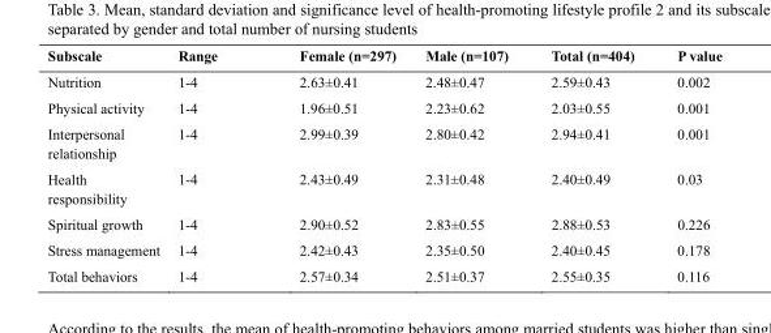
<table><thead><tr><td>Subscale</td><td>Range</td><td>Female (n=297)</td><td>Male (n=107)</td><td>Total (n=404)</td><td>P value</td></tr></thead><tbody><tr><td>Nutrition</td><td>1-4</td><td>2.63±0.41</td><td>2.48±0.47</td><td>2.59±0.43</td><td>0.002</td></tr><tr><td>Physical activity</td><td>1-4</td><td>1.96±0.51</td><td>2.23±0.62</td><td>2.03±0.55</td><td>0.001</td></tr><tr><td>Interpersonal relationship</td><td>1-4</td><td>2.99±0.39</td><td>2.80±0.42</td><td>2.94±0.41</td><td>0.001</td></tr><tr><td>Health responsibility</td><td>1-4</td><td>2.43±0.49</td><td>2.31±0.48</td><td>2.40±0.49</td><td>0.03</td></tr><tr><td>Spiritual growth</td><td>1-4</td><td>2.90±0.52</td><td>2.83±0.55</td><td>2.88±0.53</td><td>0.226</td></tr><tr><td>Stress management</td><td>1-4</td><td>2.42±0.43</td><td>2.35±0.50</td><td>2.40±0.45</td><td>0.178</td></tr><tr><td>Total behaviors</td><td>1-4</td><td>2.57±0.34</td><td>2.51±0.37</td><td>2.55±0.35</td><td>0.116</td></tr></tbody></table>